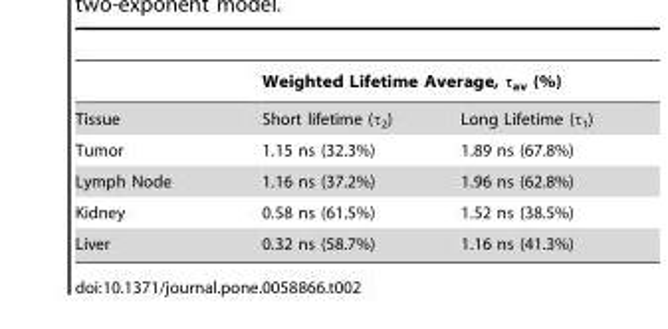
<table><thead><tr><td rowspan="2">Tissue</td><td colspan="2">Weighted Lifetime Average, τ<sub>av</sub> (%)</td></tr><tr><td>Short lifetime (τ<sub>2</sub>)</td><td>Long Lifetime (τ<sub>1</sub>)</td></tr></thead><tbody><tr><td>Tumor</td><td>1.15 ns (32.3%)</td><td>1.89 ns (67.8%)</td></tr><tr><td>Lymph Node</td><td>1.16 ns (37.2%)</td><td>1.96 ns (62.8%)</td></tr><tr><td>Kidney</td><td>0.58 ns (61.5%)</td><td>1.52 ns (38.5%)</td></tr><tr><td>Liver</td><td>0.32 ns (58.7%)</td><td>1.16 ns (41.3%)</td></tr></tbody></table>